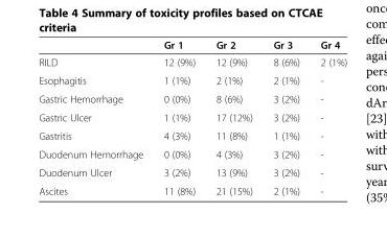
<table><thead><tr><td></td><td>Gr 1</td><td>Gr 2</td><td>Gr 3</td><td>Gr 4</td></tr></thead><tbody><tr><td>RILD</td><td>12 (9%)</td><td>12 (9%)</td><td>8 (6%)</td><td>2 (1%)</td></tr><tr><td>Esophagitis</td><td>1 (1%)</td><td>2 (1%)</td><td>2 (1%)</td><td>-</td></tr><tr><td>Gastric Hemorrhage</td><td>0 (0%)</td><td>8 (6%)</td><td>3 (2%)</td><td>-</td></tr><tr><td>Gastric Ulcer</td><td>1 (1%)</td><td>17 (12%)</td><td>3 (2%)</td><td>-</td></tr><tr><td>Gastritis</td><td>4 (3%)</td><td>11 (8%)</td><td>1 (1%)</td><td>-</td></tr><tr><td>Duodenum Hemorrhage</td><td>0 (0%)</td><td>4 (3%)</td><td>3 (2%)</td><td>-</td></tr><tr><td>Duodenum Ulcer</td><td>3 (2%)</td><td>13 (9%)</td><td>3 (2%)</td><td>-</td></tr><tr><td>Ascites</td><td>11 (8%)</td><td>21 (15%)</td><td>2 (1%)</td><td>-</td></tr></tbody></table>